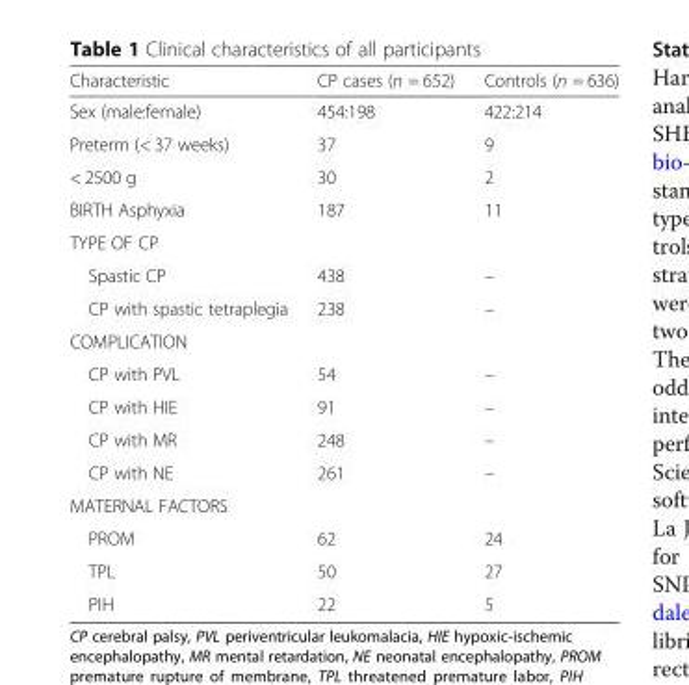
<table><thead><tr><td>Characteristic</td><td>CP cases (n = 652)</td><td>Controls (n = 636)</td></tr></thead><tbody><tr><td>Sex (male:female)</td><td>454:198</td><td>422:214</td></tr><tr><td>Preterm (&lt; 37 weeks)</td><td>37</td><td>9</td></tr><tr><td>&lt; 2500 g</td><td>30</td><td>2</td></tr><tr><td>BIRTH Asphyxia</td><td>187</td><td>11</td></tr><tr><td colspan="3">TYPE OF CP</td></tr><tr><td>Spastic CP</td><td>438</td><td>–</td></tr><tr><td>CP with spastic tetraplegia</td><td>238</td><td>–</td></tr><tr><td colspan="3">COMPLICATION</td></tr><tr><td>CP with PVL</td><td>54</td><td>–</td></tr><tr><td>CP with HIE</td><td>91</td><td>–</td></tr><tr><td>CP with MR</td><td>248</td><td>–</td></tr><tr><td>CP with NE</td><td>261</td><td>–</td></tr><tr><td colspan="3">MATERNAL FACTORS</td></tr><tr><td>PROM</td><td>62</td><td>24</td></tr><tr><td>TPL</td><td>50</td><td>27</td></tr><tr><td>PIH</td><td>22</td><td>5</td></tr></tbody></table>